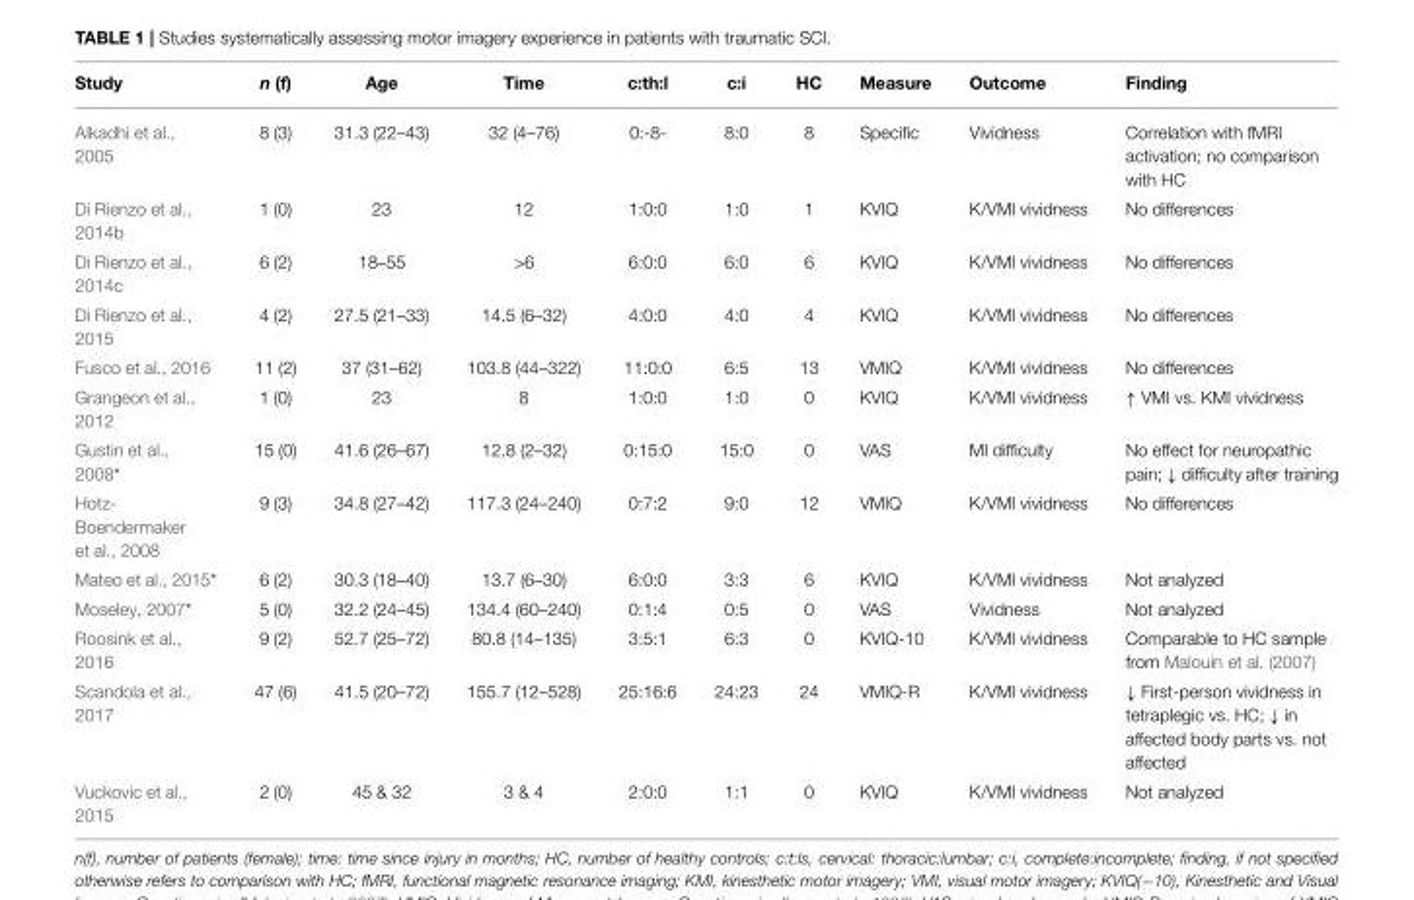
<table><thead><tr><td>Study</td><td>n (f)</td><td>Age</td><td>Time</td><td>c:th:l</td><td>c:i</td><td>HC</td><td>Measure</td><td>Outcome</td><td>Finding</td></tr></thead><tbody><tr><td>Alkadhi et al., 2005</td><td>8 (3)</td><td>31.3 (22–43)</td><td>32 (4–76)</td><td>0:-8-</td><td>8:0</td><td>8</td><td>Specific</td><td>Vividness</td><td>Correlation with fMRI activation; no comparison with HC</td></tr><tr><td>Di Rienzo et al., 2014b</td><td>1 (0)</td><td>23</td><td>12</td><td>1:0:0</td><td>1:0</td><td>1</td><td>KVIQ</td><td>K/VMI vividness</td><td>No differences</td></tr><tr><td>Di Rienzo et al., 2014c</td><td>6 (2)</td><td>18–55</td><td>&gt;6</td><td>6:0:0</td><td>6:0</td><td>6</td><td>KVIQ</td><td>K/VMI vividness</td><td>No differences</td></tr><tr><td>Di Rienzo et al., 2015</td><td>4 (2)</td><td>27.5 (21–33)</td><td>14.5 (6–32)</td><td>4:0:0</td><td>4:0</td><td>4</td><td>KVIQ</td><td>K/VMI vividness</td><td>No differences</td></tr><tr><td>Fusco et al., 2016</td><td>11 (2)</td><td>37 (31–62)</td><td>103.8 (44–322)</td><td>11:0:0</td><td>6:5</td><td>13</td><td>VMIQ</td><td>K/VMI vividness</td><td>No differences</td></tr><tr><td>Grangeon et al., 2012</td><td>1 (0)</td><td>23</td><td>8</td><td>1:0:0</td><td>1:0</td><td>0</td><td>KVIQ</td><td>K/VMI vividness</td><td>↑ VMI vs. KMI vividness</td></tr><tr><td>Gustin et al., 2008*</td><td>15 (0)</td><td>41.6 (26–67)</td><td>12.8 (2–32)</td><td>0:15:0</td><td>15:0</td><td>0</td><td>VAS</td><td>MI difficulty</td><td>No effect for neuropathic pain; ↓ difficulty after training</td></tr><tr><td>Hotz- Boendermaker et al., 2008</td><td>9 (3)</td><td>34.8 (27–42)</td><td>117.3 (24–240)</td><td>0:7:2</td><td>9:0</td><td>12</td><td>VMIQ</td><td>K/VMI vividness</td><td>No differences</td></tr><tr><td>Mateo et al., 2015*</td><td>6 (2)</td><td>30.3 (18–40)</td><td>13.7 (6–30)</td><td>6:0:0</td><td>3:3</td><td>6</td><td>KVIQ</td><td>K/VMI vividness</td><td>Not analyzed</td></tr><tr><td>Moseley, 2007*</td><td>5 (0)</td><td>32.2 (24–45)</td><td>134.4 (60–240)</td><td>0:1:4</td><td>0:5</td><td>0</td><td>VAS</td><td>Vividness</td><td>Not analyzed</td></tr><tr><td>Roosink et al., 2016</td><td>9 (2)</td><td>52.7 (25–72)</td><td>80.8 (14–135)</td><td>3:5:1</td><td>6:3</td><td>0</td><td>KVIQ-10</td><td>K/VMI vividness</td><td>Comparable to HC sample from Malouin et al. (2007)</td></tr><tr><td>Scandola et al., 2017</td><td>47 (6)</td><td>41.5 (20–72)</td><td>155.7 (12–528)</td><td>25:16:6</td><td>24:23</td><td>24</td><td>VMIQ-R</td><td>K/VMI vividness</td><td>↓ First-person vividness in tetraplegic vs. HC; ↓ in affected body parts vs. not affected</td></tr><tr><td>Vuckovic et al., 2015</td><td>2 (0)</td><td>45 &amp; 32</td><td>3 &amp; 4</td><td>2:0:0</td><td>1:1</td><td>0</td><td>KVIQ</td><td>K/VMI vividness</td><td>Not analyzed</td></tr></tbody></table>